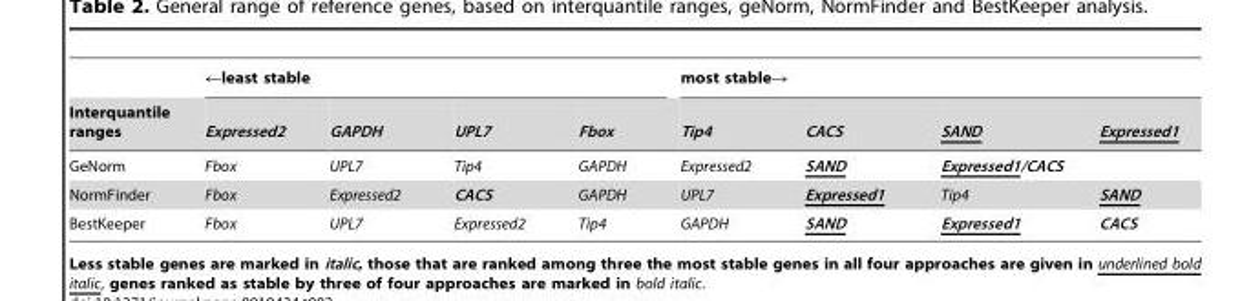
<table><thead><tr><td rowspan="2">Interquantile ranges</td><td colspan="4">←least stable</td><td colspan="4">most stable→</td></tr><tr><td>Expressed2</td><td>GAPDH</td><td>UPL7</td><td>Fbox</td><td>Tip4</td><td>CACS</td><td>SAND</td><td>Expressed1</td></tr></thead><tbody><tr><td>GeNorm</td><td>Fbox</td><td>UPL7</td><td>Tip4</td><td>GAPDH</td><td>Expressed2</td><td>SAND</td><td colspan="2">Expressed1/CACS</td></tr><tr><td>NormFinder</td><td>Fbox</td><td>Expressed2</td><td>CACS</td><td>GAPDH</td><td>UPL7</td><td>Expressed1</td><td>Tip4</td><td>SAND</td></tr><tr><td>BestKeeper</td><td>Fbox</td><td>UPL7</td><td>Expressed2</td><td>Tip4</td><td>GAPDH</td><td>SAND</td><td>Expressed1</td><td>CACS</td></tr></tbody></table>